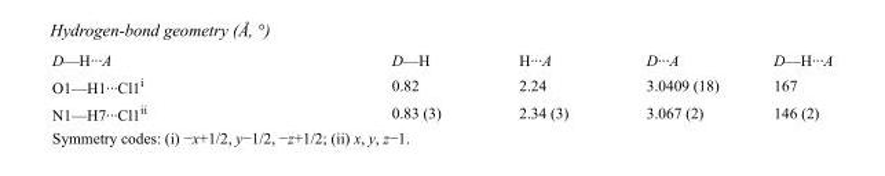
<table><tbody><tr><td>D—H···A</td><td>D—H</td><td>H···A</td><td>D···A</td><td>D—H···A</td></tr><tr><td>O1—H1···Cl1<sup>i</sup></td><td>0.82</td><td>2.24</td><td>3.0409 (18)</td><td>167</td></tr><tr><td>N1—H7···Cl1<sup>ii</sup></td><td>0.83 (3)</td><td>2.34 (3)</td><td>3.067 (2)</td><td>146 (2)</td></tr></tbody></table>